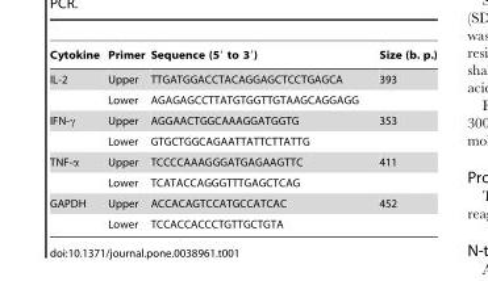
<table><thead><tr><td>Cytokine</td><td>Primer</td><td>Sequence (5′ to 3′)</td><td>Size (b. p.)</td></tr></thead><tbody><tr><td rowspan="2">IL-2</td><td>Upper</td><td>TTGATGGACCTACAGGAGCTCCTGAGCA</td><td>393</td></tr><tr><td>Lower</td><td>AGAGAGCCTTATGTGGTTGTAAGCAGGAGG</td><td></td></tr><tr><td rowspan="2">IFN-γ</td><td>Upper</td><td>AGGAACTGGCAAAGGATGGTG</td><td>353</td></tr><tr><td>Lower</td><td>GTGCTGGCAGAATTATTCTTATTG</td><td></td></tr><tr><td rowspan="2">TNF-α</td><td>Upper</td><td>TCCCCAAAGGGATGAGAAGTTC</td><td>411</td></tr><tr><td>Lower</td><td>TCATACCAGGGTTTGAGCTCAG</td><td></td></tr><tr><td rowspan="2">GAPDH</td><td>Upper</td><td>ACCACAGTCCATGCCATCAC</td><td>452</td></tr><tr><td>Lower</td><td>TCCACCACCCTGTTGCTGTA</td><td></td></tr></tbody></table>